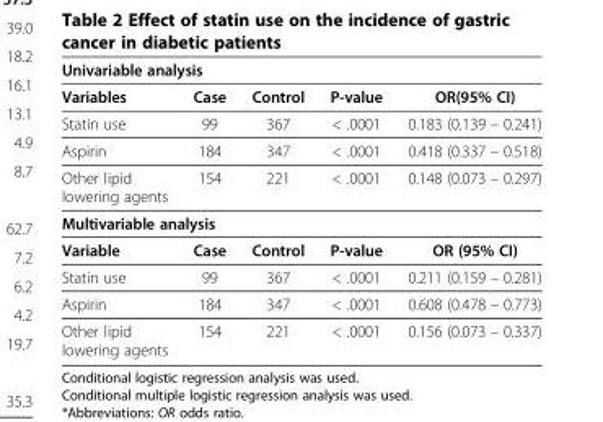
<table><thead><tr><td colspan="5">Univariable analysis</td></tr><tr><td>Variables</td><td>Case</td><td>Control</td><td>P-value</td><td>OR(95% CI)</td></tr></thead><tbody><tr><td>Statin use</td><td>99</td><td>367</td><td>&lt; .0001</td><td>0.183 (0.139 – 0.241)</td></tr><tr><td>Aspirin</td><td>184</td><td>347</td><td>&lt; .0001</td><td>0.418 (0.337 – 0.518)</td></tr><tr><td>Other lipid lowering agents</td><td>154</td><td>221</td><td>&lt; .0001</td><td>0.148 (0.073 – 0.297)</td></tr><tr><td colspan="5">Multivariable analysis</td></tr><tr><td>Variable</td><td>Case</td><td>Control</td><td>P-value</td><td>OR (95% CI)</td></tr><tr><td>Statin use</td><td>99</td><td>367</td><td>&lt; .0001</td><td>0.211 (0.159 – 0.281)</td></tr><tr><td>Aspirin</td><td>184</td><td>347</td><td>&lt; .0001</td><td>0.608 (0.478 – 0.773)</td></tr><tr><td>Other lipid lowering agents</td><td>154</td><td>221</td><td>&lt; .0001</td><td>0.156 (0.073 – 0.337)</td></tr></tbody></table>